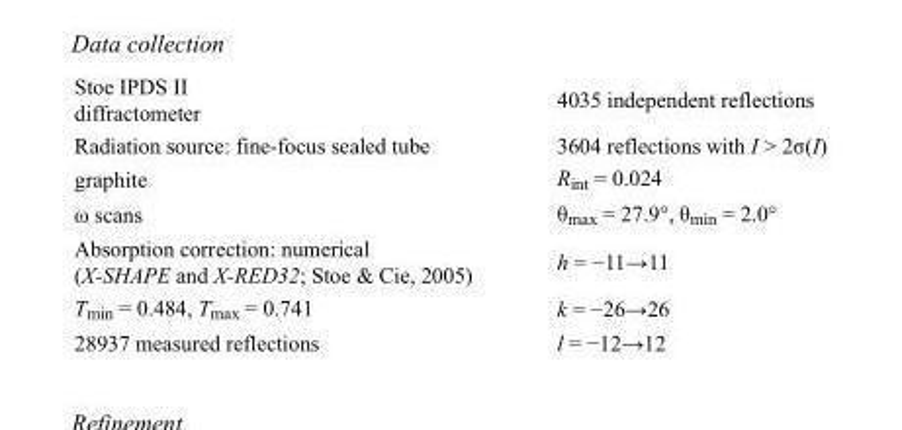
<table><tbody><tr><td>Stoe IPDS II diffractometer</td><td>4035 independent reflections</td></tr><tr><td>Radiation source: fine-focus sealed tube</td><td>3604 reflections with I &gt; 2σ(I)</td></tr><tr><td>graphite</td><td>R<sub>int</sub> = 0.024</td></tr><tr><td>ω scans</td><td>θ<sub>max</sub> = 27.9°, θ<sub>min</sub> = 2.0°</td></tr><tr><td>Absorption correction: numerical (X-SHAPE and X-RED32; Stoe &amp; Cie, 2005)</td><td>h = −11→11</td></tr><tr><td>T<sub>min</sub> = 0.484, T<sub>max</sub> = 0.741</td><td>k = −26→26</td></tr><tr><td>28937 measured reflections</td><td>l = −12→12</td></tr></tbody></table>